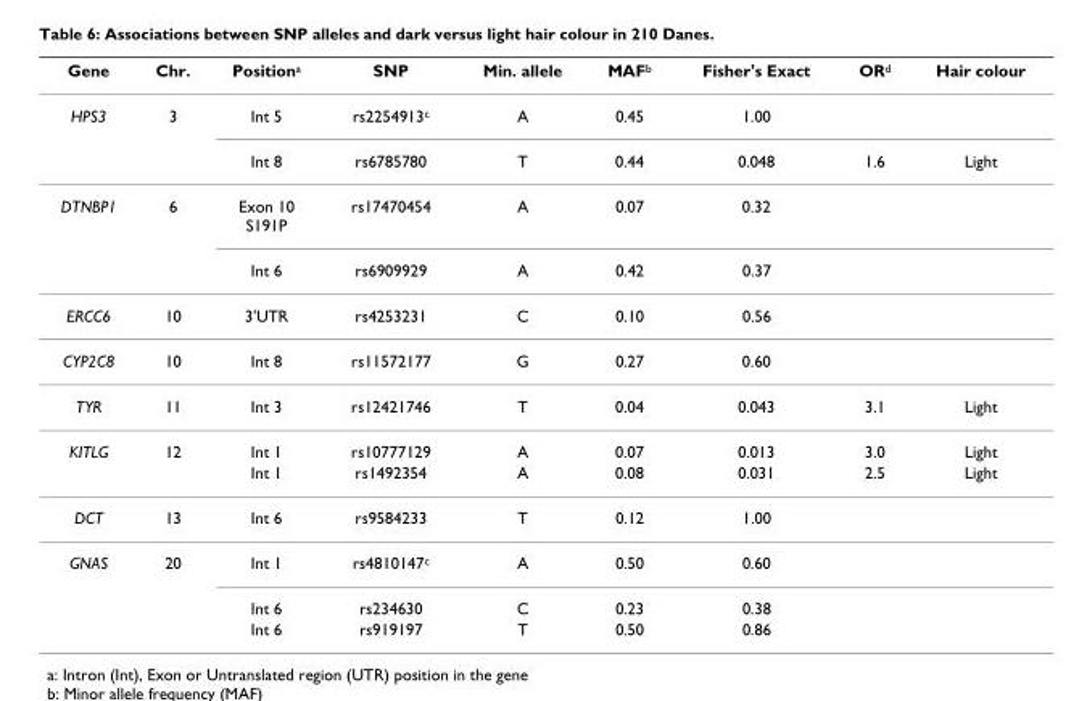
<table><thead><tr><td>Gene</td><td>Chr.</td><td>Positiona</td><td>SNP</td><td>Min. allele</td><td>MAFb</td><td>Fisher&#x27;s Exact</td><td>ORd</td><td>Hair colour</td></tr></thead><tbody><tr><td rowspan="2">HPS3</td><td>3</td><td>Int 5</td><td>rs2254913c</td><td>A</td><td>0.45</td><td>1.00</td><td></td><td></td></tr><tr><td></td><td>Int 8</td><td>rs6785780</td><td>T</td><td>0.44</td><td>0.048</td><td>1.6</td><td>Light</td></tr><tr><td rowspan="2">DTNBP1</td><td>6</td><td>Exon 10 S191P</td><td>rs17470454</td><td>A</td><td>0.07</td><td>0.32</td><td></td><td></td></tr><tr><td></td><td>Int 6</td><td>rs6909929</td><td>A</td><td>0.42</td><td>0.37</td><td></td><td></td></tr><tr><td>ERCC6</td><td>10</td><td>3&#x27;UTR</td><td>rs4253231</td><td>C</td><td>0.10</td><td>0.56</td><td></td><td></td></tr><tr><td>CYP2C8</td><td>10</td><td>Int 8</td><td>rs11572177</td><td>G</td><td>0.27</td><td>0.60</td><td></td><td></td></tr><tr><td>TYR</td><td>11</td><td>Int 3</td><td>rs12421746</td><td>T</td><td>0.04</td><td>0.043</td><td>3.1</td><td>Light</td></tr><tr><td rowspan="2">KITLG</td><td>12</td><td>Int 1</td><td>rs10777129</td><td>A</td><td>0.07</td><td>0.013</td><td>3.0</td><td>Light</td></tr><tr><td></td><td>Int 1</td><td>rs1492354</td><td>A</td><td>0.08</td><td>0.031</td><td>2.5</td><td>Light</td></tr><tr><td>DCT</td><td>13</td><td>Int 6</td><td>rs9584233</td><td>T</td><td>0.12</td><td>1.00</td><td></td><td></td></tr><tr><td rowspan="3">GNAS</td><td>20</td><td>Int 1</td><td>rs4810147c</td><td>A</td><td>0.50</td><td>0.60</td><td></td><td></td></tr><tr><td></td><td>Int 6</td><td>rs234630</td><td>C</td><td>0.23</td><td>0.38</td><td></td><td></td></tr><tr><td></td><td>Int 6</td><td>rs919197</td><td>T</td><td>0.50</td><td>0.86</td><td></td><td></td></tr></tbody></table>